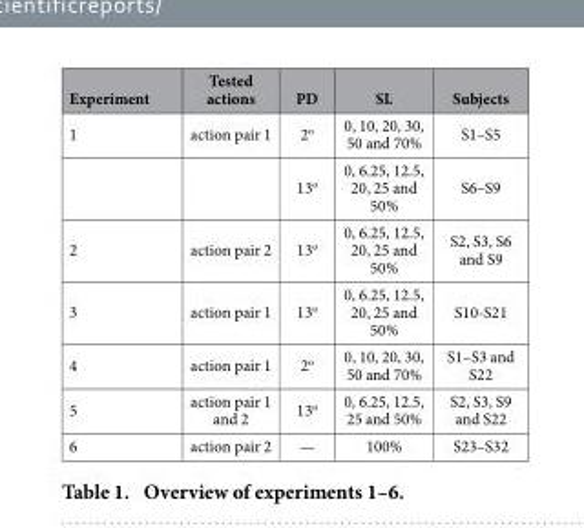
<table><thead><tr><td>Experiment</td><td>Tested actions</td><td>PD</td><td>SL</td><td>Subjects</td></tr></thead><tbody><tr><td rowspan="2">1</td><td>action pair 1</td><td>2<sup>o</sup></td><td>0, 10, 20, 30, 50 and 70%</td><td>S1–S5</td></tr><tr><td></td><td>13<sup>o</sup></td><td>0, 6.25, 12.5, 20, 25 and 50%</td><td>S6–S9</td></tr><tr><td>2</td><td>action pair 2</td><td>13<sup>o</sup></td><td>0, 6.25, 12.5, 20, 25 and 50%</td><td>S2, S3, S6 and S9</td></tr><tr><td>3</td><td>action pair 1</td><td>13<sup>o</sup></td><td>0, 6.25, 12.5, 20, 25 and 50%</td><td>S10-S21</td></tr><tr><td>4</td><td>action pair 1</td><td>2<sup>o</sup></td><td>0, 10, 20, 30, 50 and 70%</td><td>S1–S3 and S22</td></tr><tr><td>5</td><td>action pair 1 and 2</td><td>13<sup>o</sup></td><td>0, 6.25, 12.5, 25 and 50%</td><td>S2, S3, S9 and S22</td></tr><tr><td>6</td><td>action pair 2</td><td>—</td><td>100%</td><td>S23–S32</td></tr></tbody></table>